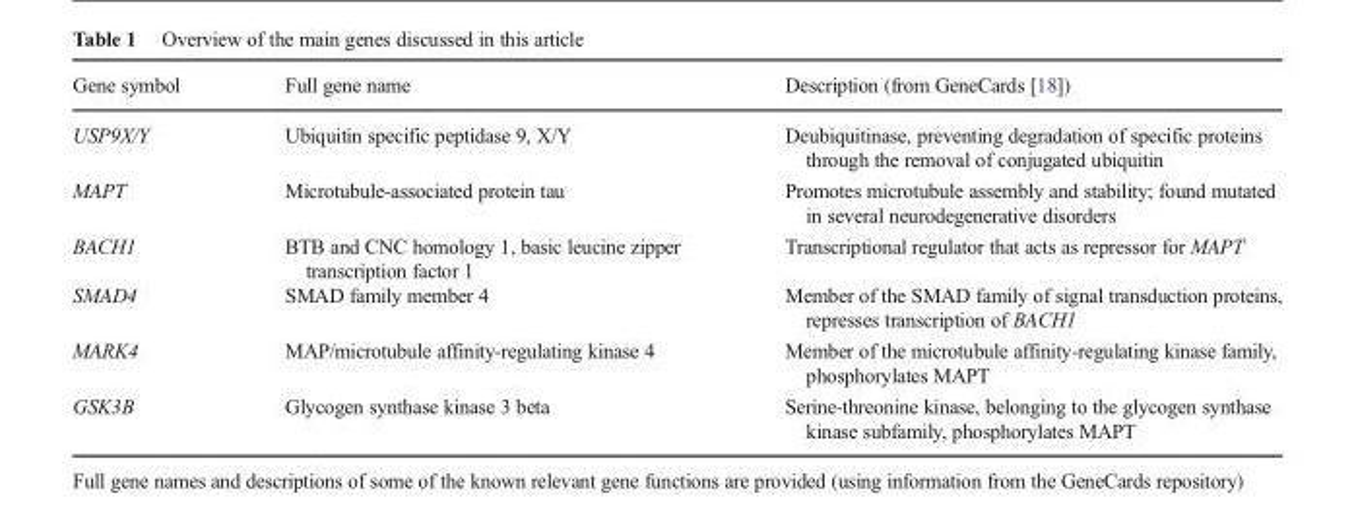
<table><thead><tr><td>Gene symbol</td><td>Full gene name</td><td>Description (from GeneCards [18])</td></tr></thead><tbody><tr><td>USP9X/Y</td><td>Ubiquitin specific peptidase 9, X/Y</td><td>Deubiquitinase, preventing degradation of specific proteins through the removal of conjugated ubiquitin</td></tr><tr><td>MAPT</td><td>Microtubule-associated protein tau</td><td>Promotes microtubule assembly and stability; found mutated in several neurodegenerative disorders</td></tr><tr><td>BACH1</td><td>BTB and CNC homology 1, basic leucine zipper transcription factor 1</td><td>Transcriptional regulator that acts as repressor for MAPT</td></tr><tr><td>SMAD4</td><td>SMAD family member 4</td><td>Member of the SMAD family of signal transduction proteins, represses transcription of BACH1</td></tr><tr><td>MARK4</td><td>MAP/microtubule affinity-regulating kinase 4</td><td>Member of the microtubule affinity-regulating kinase family, phosphorylates MAPT</td></tr><tr><td>GSK3B</td><td>Glycogen synthase kinase 3 beta</td><td>Serine-threonine kinase, belonging to the glycogen synthase kinase subfamily, phosphorylates MAPT</td></tr></tbody></table>